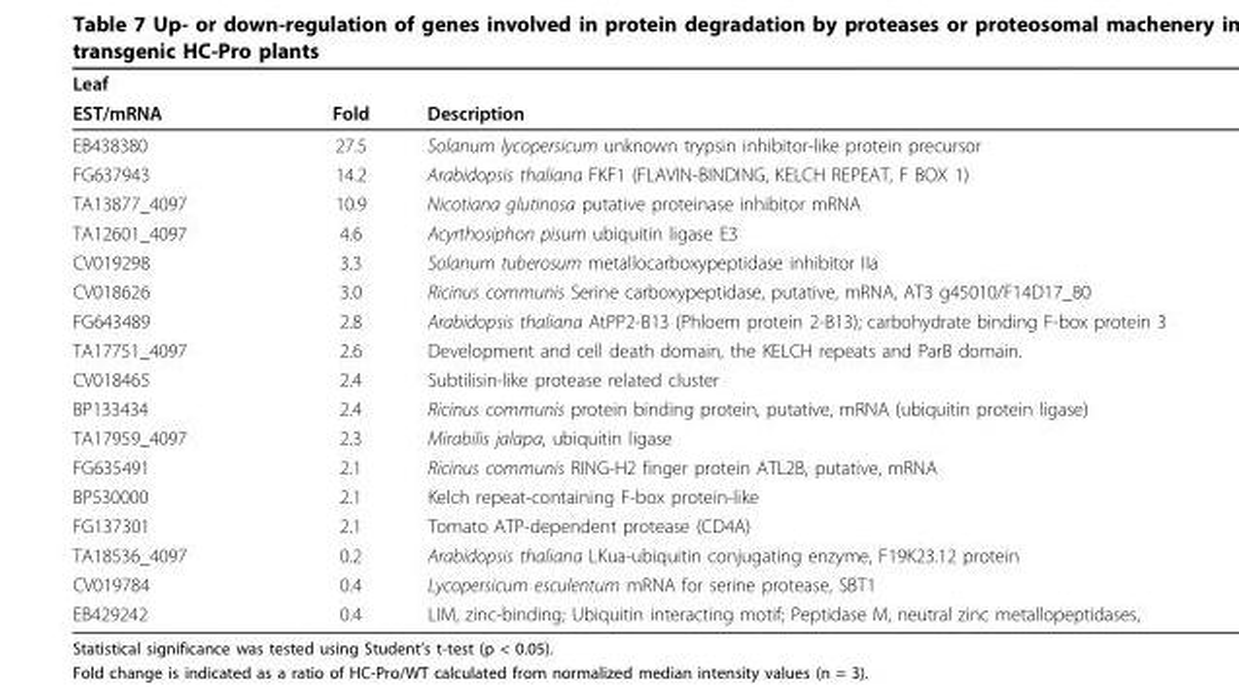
<table><thead><tr><td rowspan="2">Leaf EST/mRNA</td><td rowspan="2">Fold</td><td rowspan="2">Description</td></tr><tr></tr></thead><tbody><tr><td>EB438380</td><td>27.5</td><td>Solanum lycopersicum unknown trypsin inhibitor-like protein precursor</td></tr><tr><td>FG637943</td><td>14.2</td><td>Arabidopsis thaliana FKF1 (FLAVIN-BINDING, KELCH REPEAT, F BOX 1)</td></tr><tr><td>TA13877_4097</td><td>10.9</td><td>Nicotiana glutinosa putative proteinase inhibitor mRNA</td></tr><tr><td>TA12601_4097</td><td>4.6</td><td>Acyrthosiphon pisum ubiquitin ligase E3</td></tr><tr><td>CV019298</td><td>3.3</td><td>Solanum tuberosum metallocarboxypeptidase inhibitor IIa</td></tr><tr><td>CV018626</td><td>3.0</td><td>Ricinus communis Serine carboxypeptidase, putative, mRNA, AT3 g45010/F14D17_80</td></tr><tr><td>FG643489</td><td>2.8</td><td>Arabidopsis thaliana AtPP2-B13 (Phloem protein 2-B13); carbohydrate binding F-box protein 3</td></tr><tr><td>TA17751_4097</td><td>2.6</td><td>Development and cell death domain, the KELCH repeats and ParB domain.</td></tr><tr><td>CV018465</td><td>2.4</td><td>Subtilisin-like protease related cluster</td></tr><tr><td>BP133434</td><td>2.4</td><td>Ricinus communis protein binding protein, putative, mRNA (ubiquitin protein ligase)</td></tr><tr><td>TA17959_4097</td><td>2.3</td><td>Mirabilis jalapa, ubiquitin ligase</td></tr><tr><td>FG635491</td><td>2.1</td><td>Ricinus communis RING-H2 finger protein ATL2B, putative, mRNA</td></tr><tr><td>BP530000</td><td>2.1</td><td>Kelch repeat-containing F-box protein-like</td></tr><tr><td>FG137301</td><td>2.1</td><td>Tomato ATP-dependent protease (CD4A)</td></tr><tr><td>TA18536_4097</td><td>0.2</td><td>Arabidopsis thaliana LKua-ubiquitin conjugating enzyme, F19K23.12 protein</td></tr><tr><td>CV019784</td><td>0.4</td><td>Lycopersicum esculentum mRNA for serine protease, SBT1</td></tr><tr><td>EB429242</td><td>0.4</td><td>LIM, zinc-binding; Ubiquitin interacting motif; Peptidase M, neutral zinc metallopeptidases,</td></tr></tbody></table>